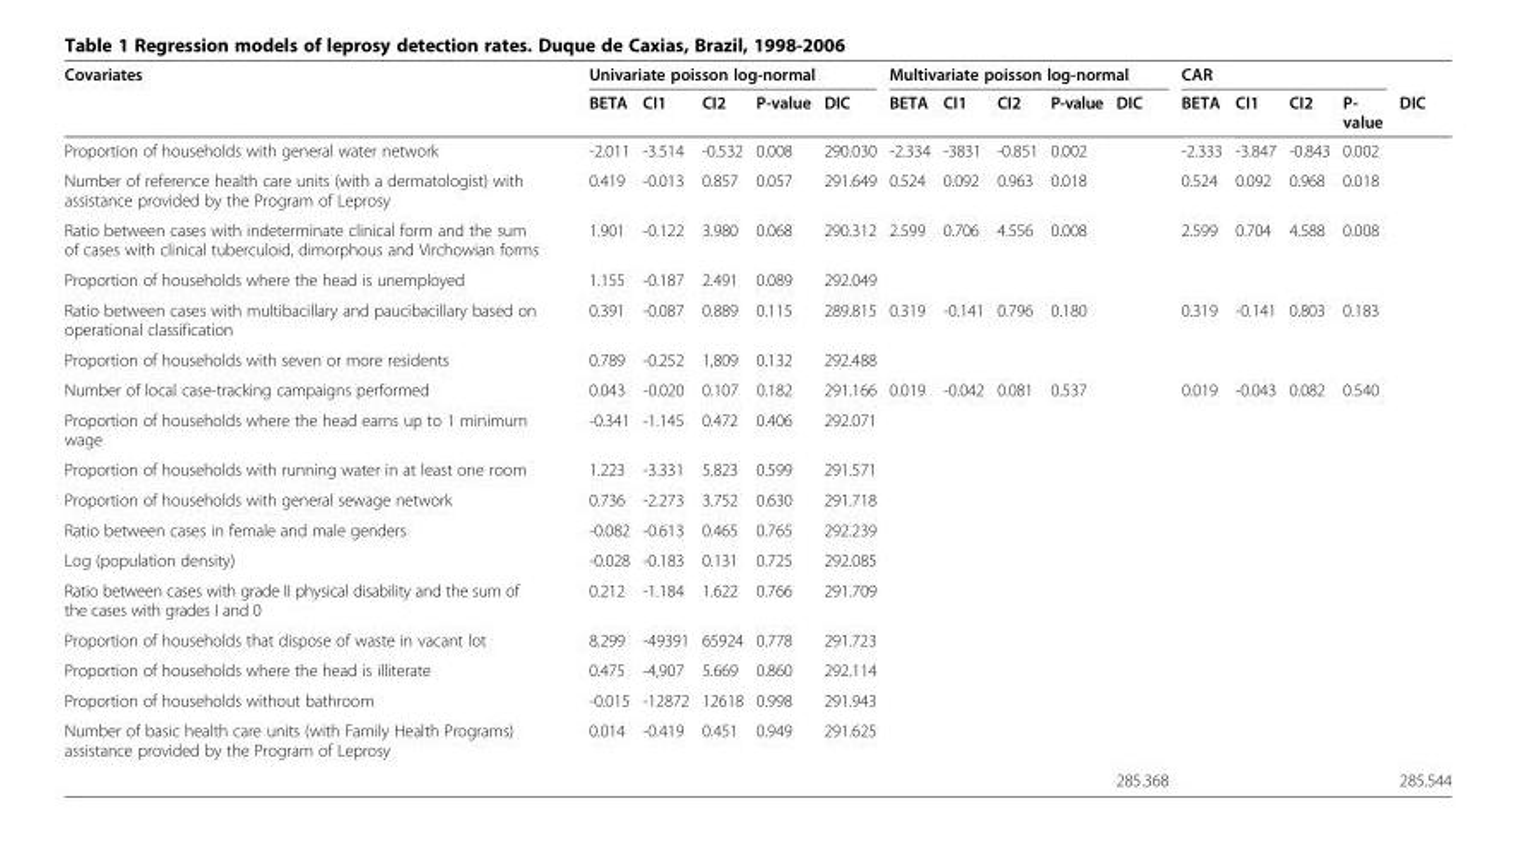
<table><thead><tr><td rowspan="2">Covariates</td><td colspan="5">Univariate poisson log-normal</td><td colspan="5">Multivariate poisson log-normal</td><td colspan="4">CAR</td><td rowspan="2">DIC</td></tr><tr><td>BETA</td><td>CI1</td><td>CI2</td><td>P-value</td><td>DIC</td><td>BETA</td><td>CI1</td><td>CI2</td><td>P-value</td><td>DIC</td><td>BETA</td><td>CI1</td><td>CI2</td><td>P- value</td></tr></thead><tbody><tr><td>Proportion of households with general water network</td><td>-2.011</td><td>-3.514</td><td>-0.532</td><td>0.008</td><td>290.030</td><td>-2.334</td><td>-3831</td><td>-0.851</td><td>0.002</td><td></td><td>-2.333</td><td>-3.847</td><td>-0.843</td><td>0.002</td><td></td></tr><tr><td>Number of reference health care units (with a dermatologist) with assistance provided by the Program of Leprosy</td><td>0.419</td><td>-0.013</td><td>0.857</td><td>0.057</td><td>291.649</td><td>0.524</td><td>0.092</td><td>0.963</td><td>0.018</td><td></td><td>0.524</td><td>0.092</td><td>0.968</td><td>0.018</td><td></td></tr><tr><td>Ratio between cases with indeterminate clinical form and the sum of cases with clinical tuberculoid, dimorphous and Virchowian forms</td><td>1.901</td><td>-0.122</td><td>3.980</td><td>0.068</td><td>290.312</td><td>2.599</td><td>0.706</td><td>4.556</td><td>0.008</td><td></td><td>2.599</td><td>0.704</td><td>4.588</td><td>0.008</td><td></td></tr><tr><td>Proportion of households where the head is unemployed</td><td>1.155</td><td>-0.187</td><td>2.491</td><td>0.089</td><td>292.049</td><td></td><td></td><td></td><td></td><td></td><td></td><td></td><td></td><td></td><td></td></tr><tr><td>Ratio between cases with multibacillary and paucibacillary based on operational classification</td><td>0.391</td><td>-0.087</td><td>0.889</td><td>0.115</td><td>289.815</td><td>0.319</td><td>-0.141</td><td>0.796</td><td>0.180</td><td></td><td>0.319</td><td>-0.141</td><td>0.803</td><td>0.183</td><td></td></tr><tr><td>Proportion of households with seven or more residents</td><td>0.789</td><td>-0.252</td><td>1,809</td><td>0.132</td><td>292.488</td><td></td><td></td><td></td><td></td><td></td><td></td><td></td><td></td><td></td><td></td></tr><tr><td>Number of local case-tracking campaigns performed</td><td>0.043</td><td>-0.020</td><td>0.107</td><td>0.182</td><td>291.166</td><td>0.019</td><td>-0.042</td><td>0.081</td><td>0.537</td><td></td><td>0.019</td><td>-0.043</td><td>0.082</td><td>0.540</td><td></td></tr><tr><td>Proportion of households where the head earns up to 1 minimum wage</td><td>-0.341</td><td>-1.145</td><td>0.472</td><td>0.406</td><td>292.071</td><td></td><td></td><td></td><td></td><td></td><td></td><td></td><td></td><td></td><td></td></tr><tr><td>Proportion of households with running water in at least one room</td><td>1.223</td><td>-3.331</td><td>5.823</td><td>0.599</td><td>291.571</td><td></td><td></td><td></td><td></td><td></td><td></td><td></td><td></td><td></td><td></td></tr><tr><td>Proportion of households with general sewage network</td><td>0.736</td><td>-2.273</td><td>3.752</td><td>0.630</td><td>291.718</td><td></td><td></td><td></td><td></td><td></td><td></td><td></td><td></td><td></td><td></td></tr><tr><td>Ratio between cases in female and male genders</td><td>-0.082</td><td>-0.613</td><td>0.465</td><td>0.765</td><td>292.239</td><td></td><td></td><td></td><td></td><td></td><td></td><td></td><td></td><td></td><td></td></tr><tr><td>Log (population density)</td><td>-0.028</td><td>-0.183</td><td>0.131</td><td>0.725</td><td>292.085</td><td></td><td></td><td></td><td></td><td></td><td></td><td></td><td></td><td></td><td></td></tr><tr><td>Ratio between cases with grade II physical disability and the sum of the cases with grades I and 0</td><td>0.212</td><td>-1.184</td><td>1.622</td><td>0.766</td><td>291.709</td><td></td><td></td><td></td><td></td><td></td><td></td><td></td><td></td><td></td><td></td></tr><tr><td>Proportion of households that dispose of waste in vacant lot</td><td>8.299</td><td>-49391</td><td>65924</td><td>0.778</td><td>291.723</td><td></td><td></td><td></td><td></td><td></td><td></td><td></td><td></td><td></td><td></td></tr><tr><td>Proportion of households where the head is illiterate</td><td>0.475</td><td>-4,907</td><td>5.669</td><td>0.860</td><td>292.114</td><td></td><td></td><td></td><td></td><td></td><td></td><td></td><td></td><td></td><td></td></tr><tr><td>Proportion of households without bathroom</td><td>-0.015</td><td>-12872</td><td>12618</td><td>0.998</td><td>291.943</td><td></td><td></td><td></td><td></td><td></td><td></td><td></td><td></td><td></td><td></td></tr><tr><td rowspan="2">Number of basic health care units (with Family Health Programs) assistance provided by the Program of Leprosy</td><td>0.014</td><td>-0.419</td><td>0.451</td><td>0.949</td><td>291.625</td><td></td><td></td><td></td><td></td><td></td><td></td><td></td><td></td><td></td><td></td></tr><tr><td></td><td></td><td></td><td></td><td></td><td></td><td></td><td></td><td></td><td>285.368</td><td></td><td></td><td></td><td></td><td>285.544</td></tr></tbody></table>